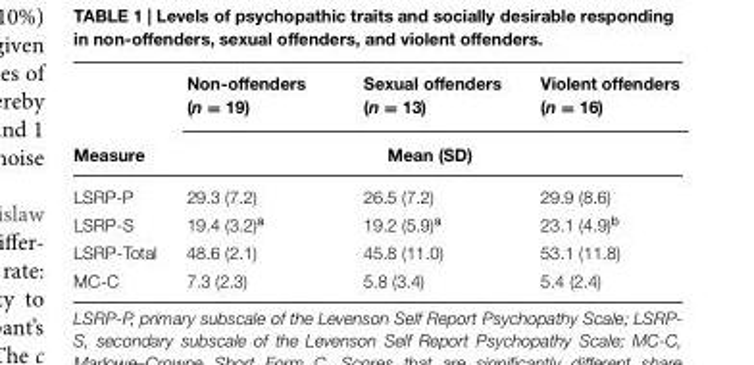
<table><thead><tr><td rowspan="2">Measure</td><td>Non-offenders (n = 19)</td><td>Sexual offenders (n = 13)</td><td>Violent offenders (n = 16)</td></tr><tr><td colspan="3">Mean (SD)</td></tr></thead><tbody><tr><td>LSRP-P</td><td>29.3 (7.2)</td><td>26.5 (7.2)</td><td>29.9 (8.6)</td></tr><tr><td>LSRP-S</td><td>19.4 (3.2)<sup>a</sup></td><td>19.2 (5.9)<sup>a</sup></td><td>23.1 (4.9)<sup>b</sup></td></tr><tr><td>LSRP-Total</td><td>48.6 (2.1)</td><td>45.8 (11.0)</td><td>53.1 (11.8)</td></tr><tr><td>MC-C</td><td>7.3 (2.3)</td><td>5.8 (3.4)</td><td>5.4 (2.4)</td></tr></tbody></table>